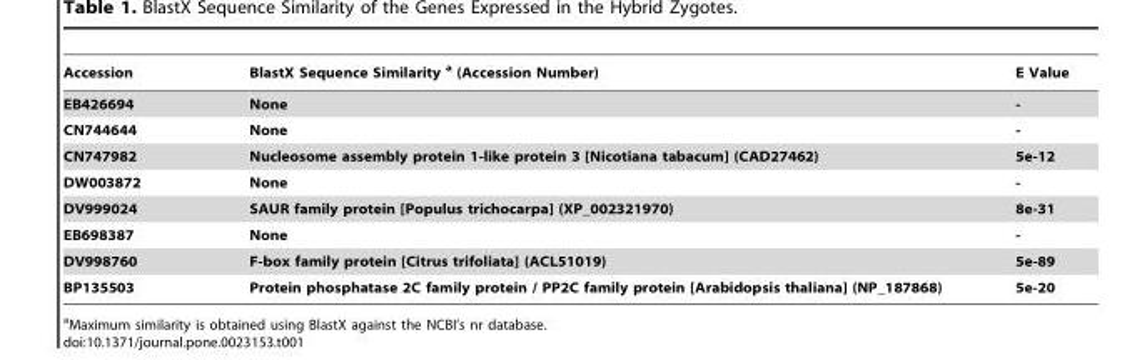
<table><thead><tr><td>Accession</td><td>BlastX Sequence Similarity a (Accession Number)</td><td>E Value</td></tr></thead><tbody><tr><td>EB426694</td><td>None</td><td>-</td></tr><tr><td>CN744644</td><td>None</td><td>-</td></tr><tr><td>CN747982</td><td>Nucleosome assembly protein 1-like protein 3 [Nicotiana tabacum] (CAD27462)</td><td>5e-12</td></tr><tr><td>DW003872</td><td>None</td><td>-</td></tr><tr><td>DV999024</td><td>SAUR family protein [Populus trichocarpa] (XP_002321970)</td><td>8e-31</td></tr><tr><td>EB698387</td><td>None</td><td>-</td></tr><tr><td>DV998760</td><td>F-box family protein [Citrus trifoliata] (ACL51019)</td><td>5e-89</td></tr><tr><td>BP135503</td><td>Protein phosphatase 2C family protein / PP2C family protein [Arabidopsis thaliana] (NP_187868)</td><td>5e-20</td></tr></tbody></table>